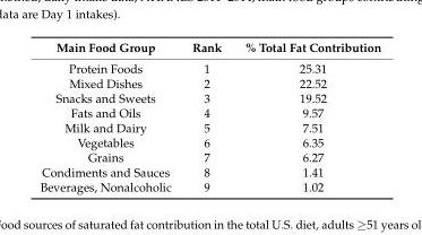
<table><thead><tr><td>Main Food Group</td><td>Rank</td><td>% Total Fat Contribution</td></tr></thead><tbody><tr><td>Protein Foods</td><td>1</td><td>25.31</td></tr><tr><td>Mixed Dishes</td><td>2</td><td>22.52</td></tr><tr><td>Snacks and Sweets</td><td>3</td><td>19.52</td></tr><tr><td>Fats and Oils</td><td>4</td><td>9.57</td></tr><tr><td>Milk and Dairy</td><td>5</td><td>7.51</td></tr><tr><td>Vegetables</td><td>6</td><td>6.35</td></tr><tr><td>Grains</td><td>7</td><td>6.27</td></tr><tr><td>Condiments and Sauces</td><td>8</td><td>1.41</td></tr><tr><td>Beverages, Nonalcoholic</td><td>9</td><td>1.02</td></tr></tbody></table>